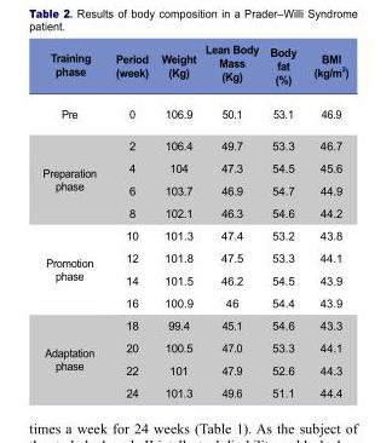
<table><thead><tr><td>Training phase</td><td>Period (week)</td><td>Weight (Kg)</td><td>Lean Body Mass (Kg)</td><td>Body fat (%)</td><td>BMI (kg/m <sup>2</sup>)</td></tr></thead><tbody><tr><td>Pre</td><td>0</td><td>106.9</td><td>50.1</td><td>53.1</td><td>46.9</td></tr><tr><td rowspan="4">Preparation phase</td><td>2</td><td>106.4</td><td>49.7</td><td>53.3</td><td>46.7</td></tr><tr><td>4</td><td>104</td><td>47.3</td><td>54.5</td><td>45.6</td></tr><tr><td>6</td><td>103.7</td><td>46.9</td><td>54.7</td><td>44.9</td></tr><tr><td>8</td><td>102.1</td><td>46.3</td><td>54.6</td><td>44.2</td></tr><tr><td rowspan="4">Promotion phase</td><td>10</td><td>101.3</td><td>47.4</td><td>53.2</td><td>43.8</td></tr><tr><td>12</td><td>101.8</td><td>47.5</td><td>53.3</td><td>44.1</td></tr><tr><td>14</td><td>101.5</td><td>46.2</td><td>54.5</td><td>43.9</td></tr><tr><td>16</td><td>100.9</td><td>46</td><td>54.4</td><td>43.9</td></tr><tr><td rowspan="4">Adaptation phase</td><td>18</td><td>99.4</td><td>45.1</td><td>54.6</td><td>43.3</td></tr><tr><td>20</td><td>100.5</td><td>47.0</td><td>53.3</td><td>44.1</td></tr><tr><td>22</td><td>101</td><td>47.9</td><td>52.6</td><td>44.3</td></tr><tr><td>24</td><td>101.3</td><td>49.6</td><td>51.1</td><td>44.4</td></tr></tbody></table>